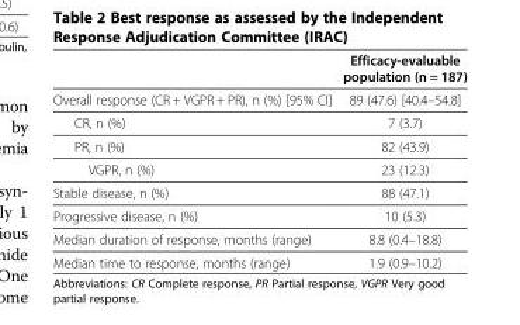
<table><thead><tr><td></td><td>Efficacy-evaluable population (n = 187)</td></tr></thead><tbody><tr><td>Overall response (CR + VGPR + PR), n (%) [95% CI]</td><td>89 (47.6) [40.4–54.8]</td></tr><tr><td>CR, n (%)</td><td>7 (3.7)</td></tr><tr><td>PR, n (%)</td><td>82 (43.9)</td></tr><tr><td>VGPR, n (%)</td><td>23 (12.3)</td></tr><tr><td>Stable disease, n (%)</td><td>88 (47.1)</td></tr><tr><td>Progressive disease, n (%)</td><td>10 (5.3)</td></tr><tr><td>Median duration of response, months (range)</td><td>8.8 (0.4–18.8)</td></tr><tr><td>Median time to response, months (range)</td><td>1.9 (0.9–10.2)</td></tr></tbody></table>